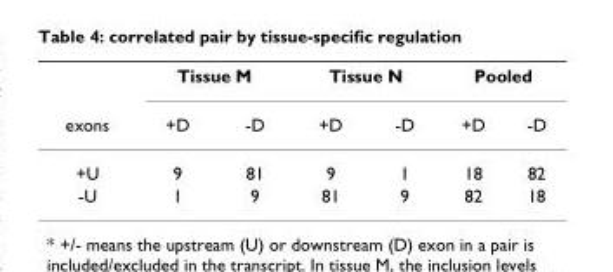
<table><thead><tr><td rowspan="2">exons</td><td colspan="2">Tissue M</td><td colspan="2">Tissue N</td><td colspan="2">Pooled</td></tr><tr><td>+D</td><td>-D</td><td>+D</td><td>-D</td><td>+D</td><td>-D</td></tr></thead><tbody><tr><td>+U</td><td>9</td><td>81</td><td>9</td><td>1</td><td>18</td><td>82</td></tr><tr><td>-U</td><td>1</td><td>9</td><td>81</td><td>9</td><td>82</td><td>18</td></tr></tbody></table>